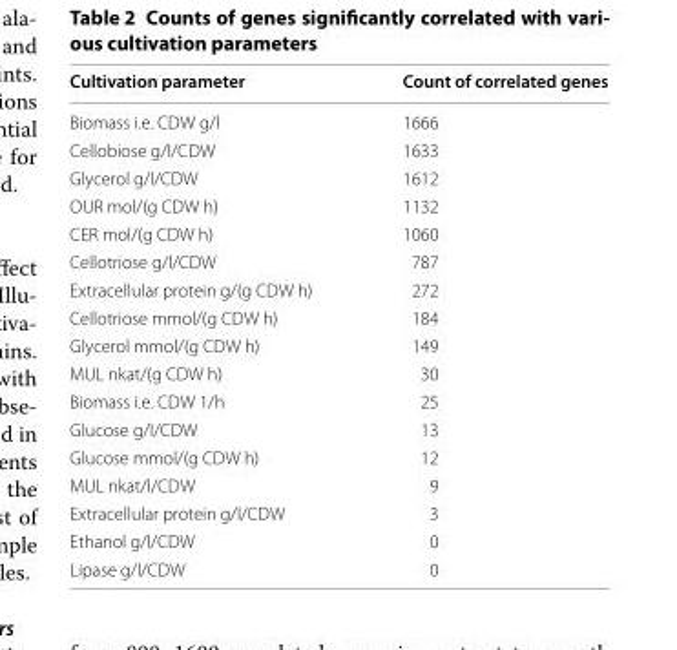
<table><thead><tr><td>Cultivation parameter</td><td>Count of correlated genes</td></tr></thead><tbody><tr><td>Biomass i.e. CDW g/l</td><td>1666</td></tr><tr><td>Cellobiose g/l/CDW</td><td>1633</td></tr><tr><td>Glycerol g/l/CDW</td><td>1612</td></tr><tr><td>OUR mol/(g CDW h)</td><td>1132</td></tr><tr><td>CER mol/(g CDW h)</td><td>1060</td></tr><tr><td>Cellotriose g/l/CDW</td><td>787</td></tr><tr><td>Extracellular protein g/(g CDW h)</td><td>272</td></tr><tr><td>Cellotriose mmol/(g CDW h)</td><td>184</td></tr><tr><td>Glycerol mmol/(g CDW h)</td><td>149</td></tr><tr><td>MUL nkat/(g CDW h)</td><td>30</td></tr><tr><td>Biomass i.e. CDW 1/h</td><td>25</td></tr><tr><td>Glucose g/l/CDW</td><td>13</td></tr><tr><td>Glucose mmol/(g CDW h)</td><td>12</td></tr><tr><td>MUL nkat/l/CDW</td><td>9</td></tr><tr><td>Extracellular protein g/l/CDW</td><td>3</td></tr><tr><td>Ethanol g/l/CDW</td><td>0</td></tr><tr><td>Lipase g/l/CDW</td><td>0</td></tr></tbody></table>